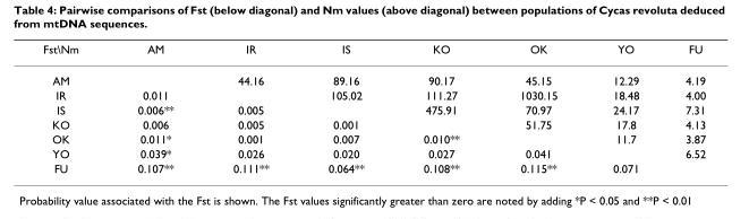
<table><thead><tr><td>Fst\Nm</td><td>AM</td><td>IR</td><td>IS</td><td>KO</td><td>OK</td><td>YO</td><td>FU</td></tr></thead><tbody><tr><td>AM</td><td></td><td>44.16</td><td>89.16</td><td>90.17</td><td>45.15</td><td>12.29</td><td>4.19</td></tr><tr><td>IR</td><td>0.011</td><td></td><td>105.02</td><td>111.27</td><td>1030.15</td><td>18.48</td><td>4.00</td></tr><tr><td>IS</td><td>0.006**</td><td>0.005</td><td></td><td>475.91</td><td>70.97</td><td>24.17</td><td>7.31</td></tr><tr><td>KO</td><td>0.006</td><td>0.005</td><td>0.001</td><td></td><td>51.75</td><td>17.8</td><td>4.13</td></tr><tr><td>OK</td><td>0.011*</td><td>0.001</td><td>0.007</td><td>0.010**</td><td></td><td>11.7</td><td>3.87</td></tr><tr><td>YO</td><td>0.039*</td><td>0.026</td><td>0.020</td><td>0.027</td><td>0.041</td><td></td><td>6.52</td></tr><tr><td>FU</td><td>0.107**</td><td>0.111**</td><td>0.064**</td><td>0.108**</td><td>0.115**</td><td>0.071</td><td></td></tr></tbody></table>